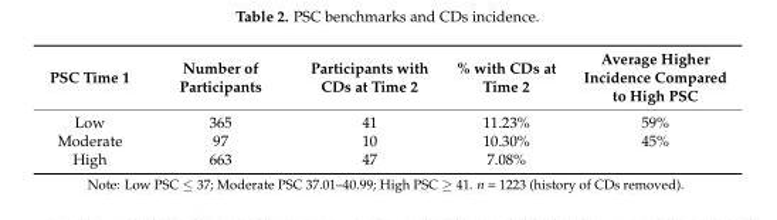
<table><thead><tr><td>PSC Time 1</td><td>Number of Participants</td><td>Participants with CDs at Time 2</td><td>% with CDs at Time 2</td><td>Average Higher Incidence Compared to High PSC</td></tr></thead><tbody><tr><td>Low</td><td>365</td><td>41</td><td>11.23%</td><td>59%</td></tr><tr><td>Moderate</td><td>97</td><td>10</td><td>10.30%</td><td>45%</td></tr><tr><td>High</td><td>663</td><td>47</td><td>7.08%</td><td></td></tr></tbody></table>